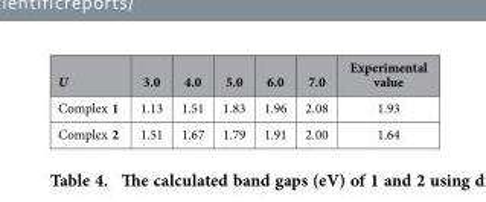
<table><thead><tr><td>U</td><td>3.0</td><td>4.0</td><td>5.0</td><td>6.0</td><td>7.0</td><td>Experimental value</td></tr></thead><tbody><tr><td>Complex 1</td><td>1.13</td><td>1.51</td><td>1.83</td><td>1.96</td><td>2.08</td><td>1.93</td></tr><tr><td>Complex 2</td><td>1.51</td><td>1.67</td><td>1.79</td><td>1.91</td><td>2.00</td><td>1.64</td></tr></tbody></table>